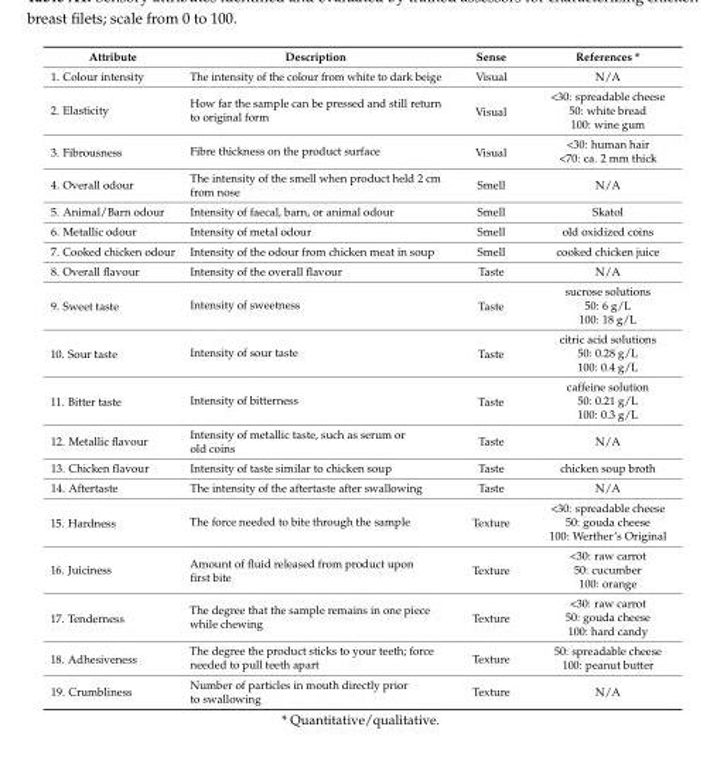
<table><thead><tr><td>Attribute</td><td>Description</td><td>Sense</td><td>References *</td></tr></thead><tbody><tr><td>1. Colour intensity</td><td>The intensity of the colour from white to dark beige</td><td>Visual</td><td>N/A</td></tr><tr><td rowspan="3">2. Elasticity</td><td rowspan="3">How far the sample can be pressed and still return to original form</td><td rowspan="3">Visual</td><td>&lt;30: spreadable cheese</td></tr><tr><td>50: white bread</td></tr><tr><td>100: wine gum</td></tr><tr><td rowspan="2">3. Fibrousness</td><td rowspan="2">Fibre thickness on the product surface</td><td rowspan="2">Visual</td><td>&lt;30: human hair</td></tr><tr><td>&lt;70: ca. 2 mm thick</td></tr><tr><td>4. Overall odour</td><td>The intensity of the smell when product held 2 cm from nose</td><td>Smell</td><td>N/A</td></tr><tr><td>5. Animal/Barn odour</td><td>Intensity of faecal, barn, or animal odour</td><td>Smell</td><td>Skatol</td></tr><tr><td>6. Metallic odour</td><td>Intensity of metal odour</td><td>Smell</td><td>old oxidized coins</td></tr><tr><td>7. Cooked chicken odour</td><td>Intensity of the odour from chicken meat in soup</td><td>Smell</td><td>cooked chicken juice</td></tr><tr><td>8. Overall flavour</td><td>Intensity of the overall flavour</td><td>Taste</td><td>N/A</td></tr><tr><td rowspan="3">9. Sweet taste</td><td rowspan="3">Intensity of sweetness</td><td rowspan="3">Taste</td><td>sucrose solutions</td></tr><tr><td>50: 6 g/L</td></tr><tr><td>100: 18 g/L</td></tr><tr><td rowspan="3">10. Sour taste</td><td rowspan="3">Intensity of sour taste</td><td rowspan="3">Taste</td><td>citric acid solutions</td></tr><tr><td>50: 0.28 g/L</td></tr><tr><td>100: 0.4 g/L</td></tr><tr><td rowspan="3">11. Bitter taste</td><td rowspan="3">Intensity of bitterness</td><td rowspan="3">Taste</td><td>caffeine solution</td></tr><tr><td>50: 0.21 g/L</td></tr><tr><td>100: 0.3 g/L</td></tr><tr><td>12. Metallic flavour</td><td>Intensity of metallic taste, such as serum or old coins</td><td>Taste</td><td>N/A</td></tr><tr><td>13. Chicken flavour</td><td>Intensity of taste similar to chicken soup</td><td>Taste</td><td>chicken soup broth</td></tr><tr><td>14. Aftertaste</td><td>The intensity of the aftertaste after swallowing</td><td>Taste</td><td>N/A</td></tr><tr><td rowspan="3">15. Hardness</td><td rowspan="3">The force needed to bite through the sample</td><td rowspan="3">Texture</td><td>&lt;30: spreadable cheese</td></tr><tr><td>50: gouda cheese</td></tr><tr><td>100: Werther’s Original</td></tr><tr><td rowspan="3">16. Juiciness</td><td rowspan="3">Amount of fluid released from product upon first bite</td><td rowspan="3">Texture</td><td>&lt;30: raw carrot</td></tr><tr><td>50: cucumber</td></tr><tr><td>100: orange</td></tr><tr><td rowspan="3">17. Tenderness</td><td rowspan="3">The degree that the sample remains in one piece while chewing</td><td rowspan="3">Texture</td><td>&lt;30: raw carrot</td></tr><tr><td>50: gouda cheese</td></tr><tr><td>100: hard candy</td></tr><tr><td rowspan="2">18. Adhesiveness</td><td rowspan="2">The degree the product sticks to your teeth; force needed to pull teeth apart</td><td rowspan="2">Texture</td><td>50: spreadable cheese</td></tr><tr><td>100: peanut butter</td></tr><tr><td>19. Crumbliness</td><td>Number of particles in mouth directly prior to swallowing</td><td>Texture</td><td>N/A</td></tr></tbody></table>